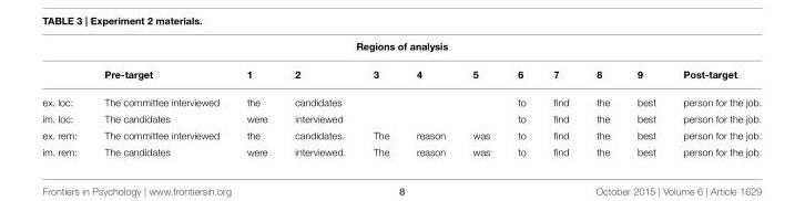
<table><thead><tr><td colspan="12">Regions of analysis</td></tr><tr><td></td><td>Pre-target</td><td>1</td><td>2</td><td>3</td><td>4</td><td>5</td><td>6</td><td>7</td><td>8</td><td>9</td><td>Post-target</td></tr></thead><tbody><tr><td>ex. loc:</td><td>The committee interviewed</td><td>the</td><td>candidates</td><td></td><td></td><td></td><td>to</td><td>find</td><td>the</td><td>best</td><td>person for the job.</td></tr><tr><td>im. loc:</td><td>The candidates</td><td>were</td><td>interviewed</td><td></td><td></td><td></td><td>to</td><td>find</td><td>the</td><td>best</td><td>person for the job.</td></tr><tr><td>ex. rem:</td><td>The committee interviewed</td><td>the</td><td>candidates.</td><td>The</td><td>reason</td><td>was</td><td>to</td><td>find</td><td>the</td><td>best</td><td>person for the job.</td></tr><tr><td>im. rem:</td><td>The candidates</td><td>were</td><td>interviewed.</td><td>The</td><td>reason</td><td>was</td><td>to</td><td>find</td><td>the</td><td>best</td><td>person for the job.</td></tr></tbody></table>